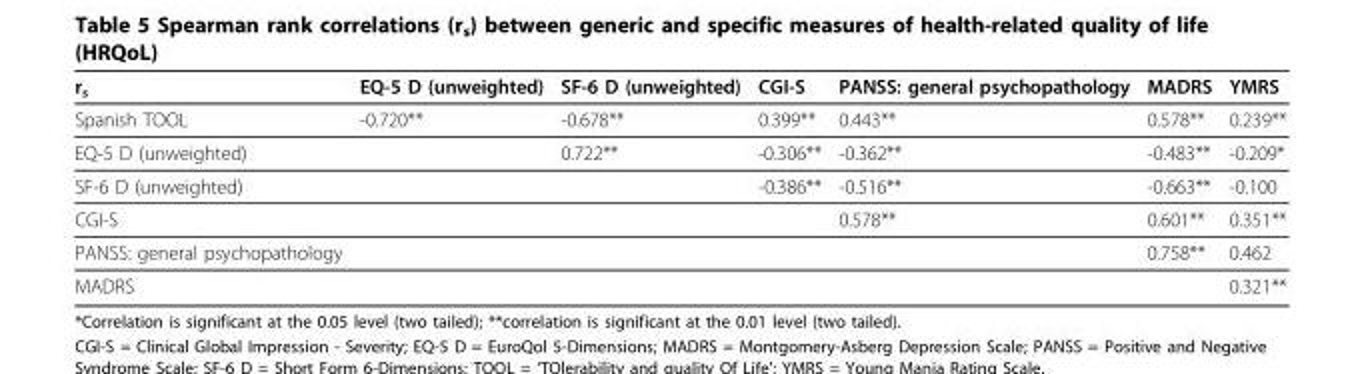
<table><thead><tr><td>r<sub>s</sub></td><td>EQ-5 D (unweighted)</td><td>SF-6 D (unweighted)</td><td>CGI-S</td><td>PANSS: general psychopathology</td><td>MADRS</td><td>YMRS</td></tr></thead><tbody><tr><td>Spanish TOOL</td><td>-0.720**</td><td>-0.678**</td><td>0.399**</td><td>0.443**</td><td>0.578**</td><td>0.239**</td></tr><tr><td>EQ-5 D (unweighted)</td><td></td><td>0.722**</td><td>-0.306**</td><td>-0.362**</td><td>-0.483**</td><td>-0.209*</td></tr><tr><td>SF-6 D (unweighted)</td><td></td><td></td><td>-0.386**</td><td>-0.516**</td><td>-0.663**</td><td>-0.100</td></tr><tr><td>CGI-S</td><td></td><td></td><td></td><td>0.578**</td><td>0.601**</td><td>0.351**</td></tr><tr><td>PANSS: general psychopathology</td><td></td><td></td><td></td><td></td><td>0.758**</td><td>0.462</td></tr><tr><td>MADRS</td><td></td><td></td><td></td><td></td><td></td><td>0.321**</td></tr></tbody></table>